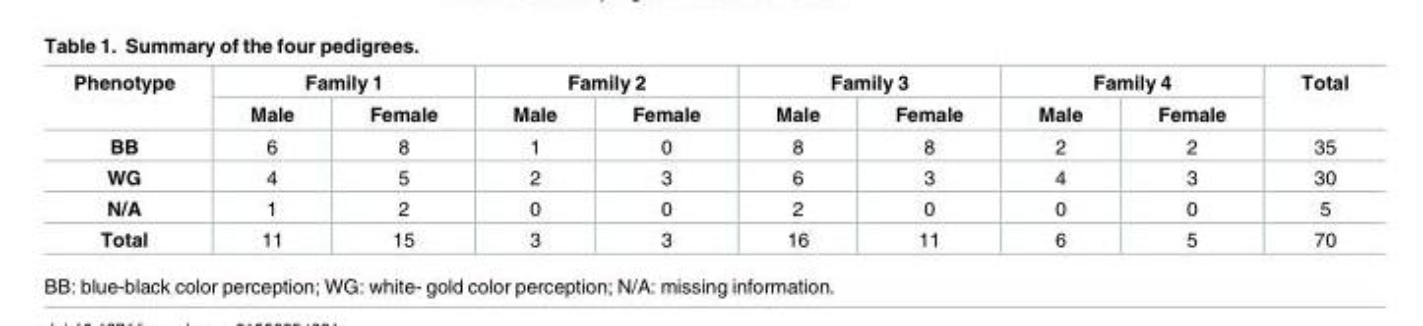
<table><thead><tr><td rowspan="2">Phenotype</td><td colspan="2">Family 1</td><td colspan="2">Family 2</td><td colspan="2">Family 3</td><td colspan="2">Family 4</td><td rowspan="2">Total</td></tr><tr><td>Male</td><td>Female</td><td>Male</td><td>Female</td><td>Male</td><td>Female</td><td>Male</td><td>Female</td></tr></thead><tbody><tr><td>BB</td><td>6</td><td>8</td><td>1</td><td>0</td><td>8</td><td>8</td><td>2</td><td>2</td><td>35</td></tr><tr><td>WG</td><td>4</td><td>5</td><td>2</td><td>3</td><td>6</td><td>3</td><td>4</td><td>3</td><td>30</td></tr><tr><td>N/A</td><td>1</td><td>2</td><td>0</td><td>0</td><td>2</td><td>0</td><td>0</td><td>0</td><td>5</td></tr><tr><td>Total</td><td>11</td><td>15</td><td>3</td><td>3</td><td>16</td><td>11</td><td>6</td><td>5</td><td>70</td></tr></tbody></table>